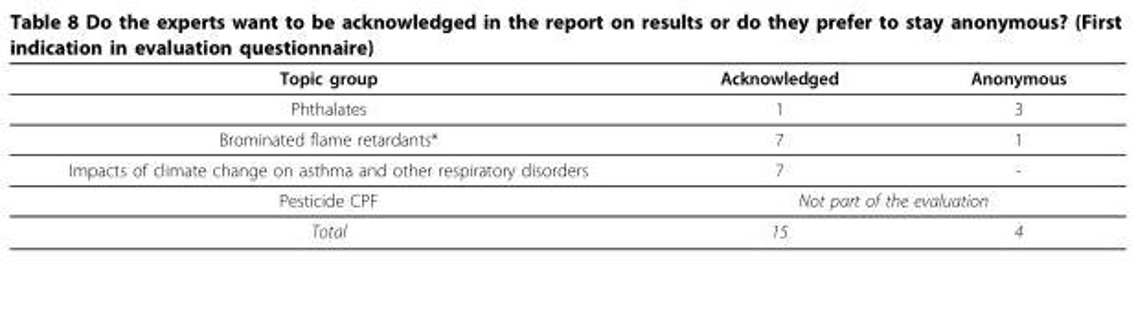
<table><thead><tr><td>Topic group</td><td>Acknowledged</td><td>Anonymous</td></tr></thead><tbody><tr><td>Phthalates</td><td>1</td><td>3</td></tr><tr><td>Brominated flame retardants*</td><td>7</td><td>1</td></tr><tr><td>Impacts of climate change on asthma and other respiratory disorders</td><td>7</td><td>-</td></tr><tr><td>Pesticide CPF</td><td colspan="2">Not part of the evaluation</td></tr><tr><td>Total</td><td>15</td><td>4</td></tr></tbody></table>